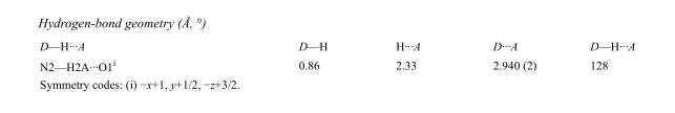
<table><tbody><tr><td>D—H···A</td><td>D—H</td><td>H···A</td><td>D···A</td><td>D—H···A</td></tr><tr><td>N2—H2A···O1<sup>i</sup></td><td>0.86</td><td>2.33</td><td>2.940 (2)</td><td>128</td></tr></tbody></table>